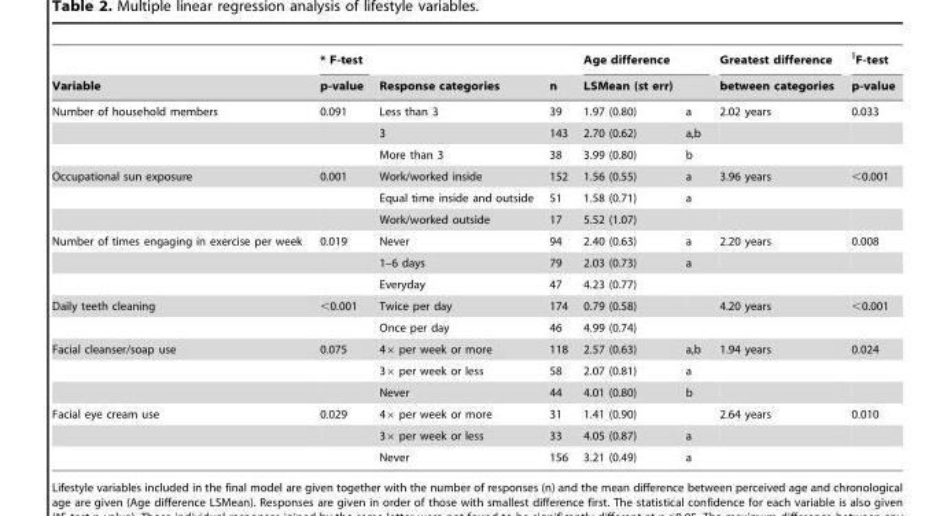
<table><thead><tr><td rowspan="3">Variable Number of household members</td><td rowspan="3">* F-test p-value 0.091</td><td rowspan="3">Response categories Less than 3</td><td rowspan="3">n 39</td><td rowspan="2" colspan="2">Age difference LSMean (st err)</td><td rowspan="3">Greatest difference between categories 2.02 years</td><td rowspan="3">$F-test p-value 0.033</td></tr><tr></tr><tr><td>1.97 (0.80)</td><td>a</td></tr></thead><tbody><tr><td></td><td></td><td>3</td><td>143</td><td>2.70 (0.62)</td><td>a,b</td><td></td><td></td></tr><tr><td></td><td></td><td>More than 3</td><td>38</td><td>3.99 (0.80)</td><td>b</td><td></td><td></td></tr><tr><td rowspan="3">Occupational sun exposure</td><td>0.001</td><td>Work/worked inside</td><td>152</td><td>1.56 (0.55)</td><td>a</td><td>3.96 years</td><td>&lt;0.001</td></tr><tr><td></td><td>Equal time inside and outside</td><td>51</td><td>1.58 (0.71)</td><td>a</td><td></td><td></td></tr><tr><td></td><td>Work/worked outside</td><td>17</td><td>5.52 (1.07)</td><td></td><td></td><td></td></tr><tr><td rowspan="3">Number of times engaging in exercise per week</td><td>0.019</td><td>Never</td><td>94</td><td>2.40 (0.63)</td><td>a</td><td>2.20 years</td><td>0.008</td></tr><tr><td></td><td>1–6 days</td><td>79</td><td>2.03 (0.73)</td><td>a</td><td></td><td></td></tr><tr><td></td><td>Everyday</td><td>47</td><td>4.23 (0.77)</td><td></td><td></td><td></td></tr><tr><td rowspan="2">Daily teeth cleaning</td><td>&lt;0.001</td><td>Twice per day</td><td>174</td><td>0.79 (0.58)</td><td></td><td>4.20 years</td><td>&lt;0.001</td></tr><tr><td></td><td>Once per day</td><td>46</td><td>4.99 (0.74)</td><td></td><td></td><td></td></tr><tr><td rowspan="3">Facial cleanser/soap use</td><td>0.075</td><td>4× per week or more</td><td>118</td><td>2.57 (0.63)</td><td>a,b</td><td>1.94 years</td><td>0.024</td></tr><tr><td></td><td>3× per week or less</td><td>58</td><td>2.07 (0.81)</td><td>a</td><td></td><td></td></tr><tr><td></td><td>Never</td><td>44</td><td>4.01 (0.80)</td><td>b</td><td></td><td></td></tr><tr><td rowspan="3">Facial eye cream use</td><td>0.029</td><td>4× per week or more</td><td>31</td><td>1.41 (0.90)</td><td></td><td>2.64 years</td><td>0.010</td></tr><tr><td></td><td>3× per week or less</td><td>33</td><td>4.05 (0.87)</td><td>a</td><td></td><td></td></tr><tr><td></td><td>Never</td><td>156</td><td>3.21 (0.49)</td><td>a</td><td></td><td></td></tr></tbody></table>